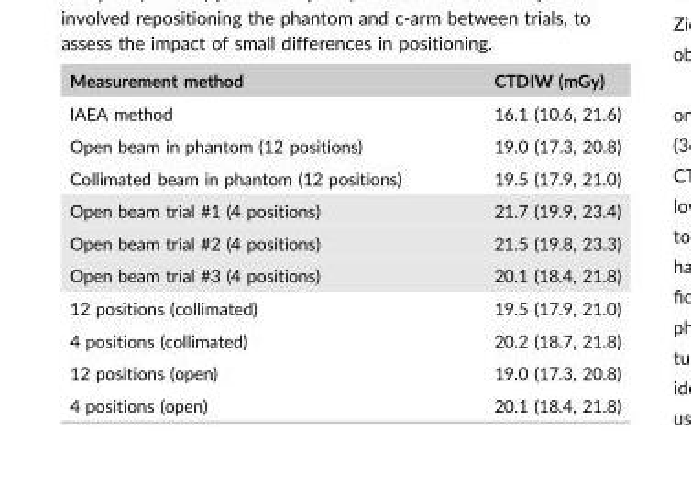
<table><thead><tr><td>Measurement method</td><td>CTDIW (mGy)</td></tr></thead><tbody><tr><td>IAEA method</td><td>16.1 (10.6, 21.6)</td></tr><tr><td>Open beam in phantom (12 positions)</td><td>19.0 (17.3, 20.8)</td></tr><tr><td>Collimated beam in phantom (12 positions)</td><td>19.5 (17.9, 21.0)</td></tr><tr><td>Open beam trial #1 (4 positions)</td><td>21.7 (19.9, 23.4)</td></tr><tr><td>Open beam trial #2 (4 positions)</td><td>21.5 (19.8, 23.3)</td></tr><tr><td>Open beam trial #3 (4 positions)</td><td>20.1 (18.4, 21.8)</td></tr><tr><td>12 positions (collimated)</td><td>19.5 (17.9, 21.0)</td></tr><tr><td>4 positions (collimated)</td><td>20.2 (18.7, 21.8)</td></tr><tr><td>12 positions (open)</td><td>19.0 (17.3, 20.8)</td></tr><tr><td>4 positions (open)</td><td>20.1 (18.4, 21.8)</td></tr></tbody></table>